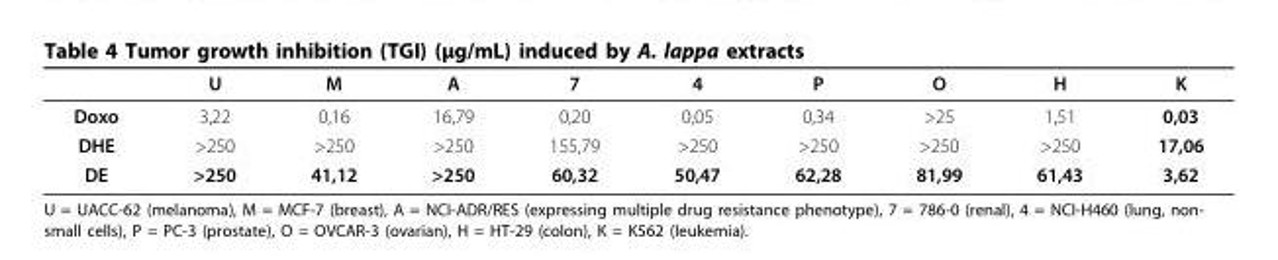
<table><thead><tr><td></td><td>U</td><td>M</td><td>A</td><td>7</td><td>4</td><td>P</td><td>O</td><td>H</td><td>K</td></tr></thead><tbody><tr><td>Doxo</td><td>3,22</td><td>0,16</td><td>16,79</td><td>0,20</td><td>0,05</td><td>0,34</td><td>&gt;25</td><td>1,51</td><td>0,03</td></tr><tr><td>DHE</td><td>&gt;250</td><td>&gt;250</td><td>&gt;250</td><td>155,79</td><td>&gt;250</td><td>&gt;250</td><td>&gt;250</td><td>&gt;250</td><td>17,06</td></tr><tr><td>DE</td><td>&gt;250</td><td>41,12</td><td>&gt;250</td><td>60,32</td><td>50,47</td><td>62,28</td><td>81,99</td><td>61,43</td><td>3,62</td></tr></tbody></table>